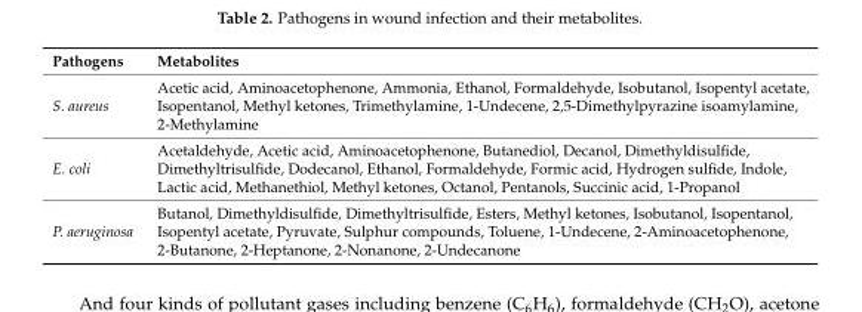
<table><thead><tr><td>Pathogens</td><td>Metabolites</td></tr></thead><tbody><tr><td>S. aureus</td><td>Acetic acid, Aminoacetophenone, Ammonia, Ethanol, Formaldehyde, Isobutanol, Isopentyl acetate, Isopentanol, Methyl ketones, Trimethylamine, 1-Undecene, 2,5-Dimethylpyrazine isoamylamine, 2-Methylamine</td></tr><tr><td>E. coli</td><td>Acetaldehyde, Acetic acid, Aminoacetophenone, Butanediol, Decanol, Dimethyldisulfide, Dimethyltrisulfide, Dodecanol, Ethanol, Formaldehyde, Formic acid, Hydrogen sulfide, Indole, Lactic acid, Methanethiol, Methyl ketones, Octanol, Pentanols, Succinic acid, 1-Propanol</td></tr><tr><td>P. aeruginosa</td><td>Butanol, Dimethyldisulfide, Dimethyltrisulfide, Esters, Methyl ketones, Isobutanol, Isopentanol, Isopentyl acetate, Pyruvate, Sulphur compounds, Toluene, 1-Undecene, 2-Aminoacetophenone, 2-Butanone, 2-Heptanone, 2-Nonanone, 2-Undecanone</td></tr></tbody></table>